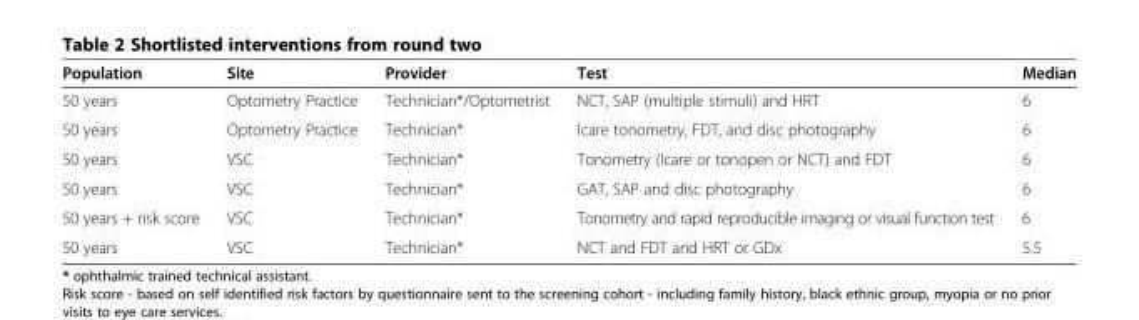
<table><thead><tr><td>Population</td><td>Site</td><td>Provider</td><td>Test</td><td>Median</td></tr></thead><tbody><tr><td>50 years</td><td>Optometry Practice</td><td>Technician*/Optometrist</td><td>NCT, SAP (multiple stimuli) and HRT</td><td>6</td></tr><tr><td>50 years</td><td>Optometry Practice</td><td>Technician*</td><td>Icare tonometry, FDT, and disc photography</td><td>6</td></tr><tr><td>50 years</td><td>VSC</td><td>Technician*</td><td>Tonometry (Icare or tonopen or NCT) and FDT</td><td>6</td></tr><tr><td>50 years</td><td>VSC</td><td>Technician*</td><td>GAT, SAP and disc photography</td><td>6</td></tr><tr><td>50 years + risk score</td><td>VSC</td><td>Technician*</td><td>Tonometry and rapid reproducible imaging or visual function test</td><td>6</td></tr><tr><td>50 years</td><td>VSC</td><td>Technician*</td><td>NCT and FDT and HRT or GDx</td><td>5.5</td></tr></tbody></table>